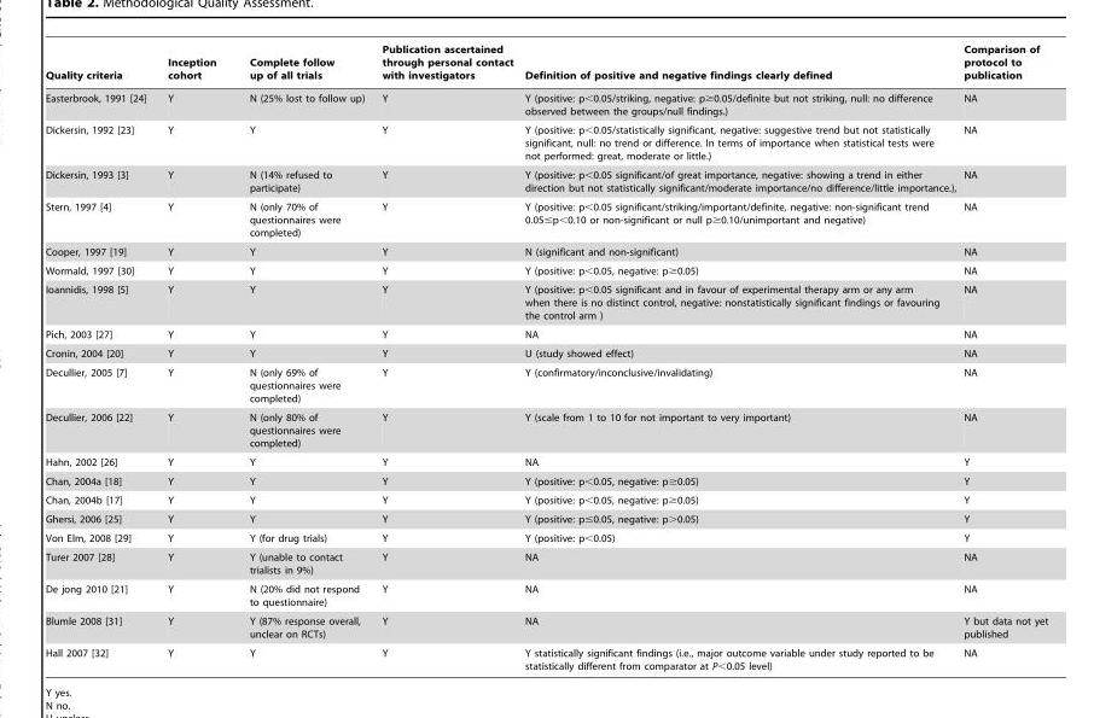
<table><thead><tr><td>Quality criteria</td><td>Inception cohort</td><td>Complete follow up of all trials</td><td>Publication ascertained through personal contact with investigators</td><td>Definition of positive and negative findings clearly defined</td><td>Comparison of protocol to publication</td></tr></thead><tbody><tr><td>Easterbrook, 1991 [24]</td><td>Y</td><td>N (25% lost to follow up)</td><td>Y</td><td>Y (positive: p&lt;0.05/striking, negative: p≥0.05/definite but not striking, null: no difference observed between the groups/null findings.)</td><td>NA</td></tr><tr><td>Dickersin, 1992 [23]</td><td>Y</td><td>Y</td><td>Y</td><td>Y (positive: p&lt;0.05/statistically significant, negative: suggestive trend but not statistically significant, null: no trend or difference. In terms of importance when statistical tests were not performed: great, moderate or little.)</td><td>NA</td></tr><tr><td>Dickersin, 1993 [3]</td><td>Y</td><td>N (14% refused to participate)</td><td>Y</td><td>Y (positive: p&lt;0.05 significant/of great importance, negative: showing a trend in either direction but not statistically significant/moderate importance/no difference/little importance.),</td><td>NA</td></tr><tr><td>Stern, 1997 [4]</td><td>Y</td><td>N (only 70% of questionnaires were completed)</td><td>Y</td><td>Y (positive: p&lt;0.05 significant/striking/important/definite, negative: non-significant trend 0.05≤p&lt;0.10 or non-significant or null p≥0.10/unimportant and negative)</td><td>NA</td></tr><tr><td>Cooper, 1997 [19]</td><td>Y</td><td>Y</td><td>Y</td><td>N (significant and non-significant)</td><td>NA</td></tr><tr><td>Wormald, 1997 [30]</td><td>Y</td><td>Y</td><td>Y</td><td>Y (positive: p&lt;0.05, negative: p≥0.05)</td><td>NA</td></tr><tr><td>Ioannidis, 1998 [5]</td><td>Y</td><td>Y</td><td>Y</td><td>Y (positive: p&lt;0.05 significant and in favour of experimental therapy arm or any arm when there is no distinct control, negative: nonstatistically significant findings or favouring the control arm )</td><td>NA</td></tr><tr><td>Pich, 2003 [27]</td><td>Y</td><td>Y</td><td>Y</td><td>NA</td><td>NA</td></tr><tr><td>Cronin, 2004 [20]</td><td>Y</td><td>Y</td><td>Y</td><td>U (study showed effect)</td><td>NA</td></tr><tr><td>Decullier, 2005 [7]</td><td>Y</td><td>N (only 69% of questionnaires were completed)</td><td>Y</td><td>Y (confirmatory/inconclusive/invalidating)</td><td>NA</td></tr><tr><td>Decullier, 2006 [22]</td><td>Y</td><td>N (only 80% of questionnaires were completed)</td><td>Y</td><td>Y (scale from 1 to 10 for not important to very important)</td><td>NA</td></tr><tr><td>Hahn, 2002 [26]</td><td>Y</td><td>Y</td><td>Y</td><td>NA</td><td>Y</td></tr><tr><td>Chan, 2004a [18]</td><td>Y</td><td>Y</td><td>Y</td><td>Y (positive: p&lt;0.05, negative: p≥0.05)</td><td>Y</td></tr><tr><td>Chan, 2004b [17]</td><td>Y</td><td>Y</td><td>Y</td><td>Y (positive: p&lt;0.05, negative: p≥0.05)</td><td>Y</td></tr><tr><td>Ghersi, 2006 [25]</td><td>Y</td><td>Y</td><td>Y</td><td>Y (positive: p≤0.05, negative: p&gt;0.05)</td><td>Y</td></tr><tr><td>Von Elm, 2008 [29]</td><td>Y</td><td>Y (for drug trials)</td><td>Y</td><td>Y (positive: p&lt;0.05)</td><td>Y</td></tr><tr><td>Turer 2007 [28]</td><td>Y</td><td>Y (unable to contact trialists in 9%)</td><td>Y</td><td>NA</td><td>NA</td></tr><tr><td>De jong 2010 [21]</td><td>Y</td><td>N (20% did not respond to questionnaire)</td><td>Y</td><td>NA</td><td>NA</td></tr><tr><td>Blumle 2008 [31]</td><td>Y</td><td>Y (87% response overall, unclear on RCTs)</td><td>Y</td><td>NA</td><td>Y but data not yet published</td></tr><tr><td>Hall 2007 [32]</td><td>Y</td><td>Y</td><td>Y</td><td>Y statistically significant findings (i.e., major outcome variable under study reported to be statistically different from comparator at P&lt;0.05 level)</td><td>NA</td></tr></tbody></table>